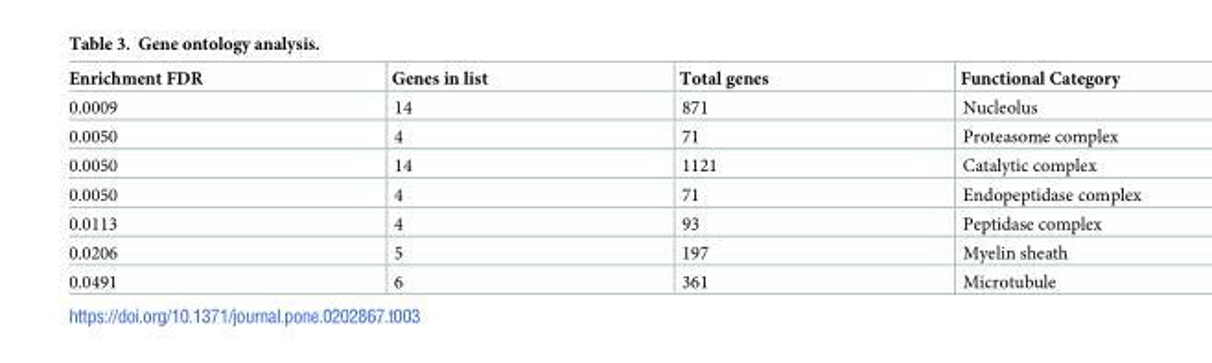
<table><thead><tr><td>Enrichment FDR</td><td>Genes in list</td><td>Total genes</td><td>Functional Category</td></tr></thead><tbody><tr><td>0.0009</td><td>14</td><td>871</td><td>Nucleolus</td></tr><tr><td>0.0050</td><td>4</td><td>71</td><td>Proteasome complex</td></tr><tr><td>0.0050</td><td>14</td><td>1121</td><td>Catalytic complex</td></tr><tr><td>0.0050</td><td>4</td><td>71</td><td>Endopeptidase complex</td></tr><tr><td>0.0113</td><td>4</td><td>93</td><td>Peptidase complex</td></tr><tr><td>0.0206</td><td>5</td><td>197</td><td>Myelin sheath</td></tr><tr><td>0.0491</td><td>6</td><td>361</td><td>Microtubule</td></tr></tbody></table>